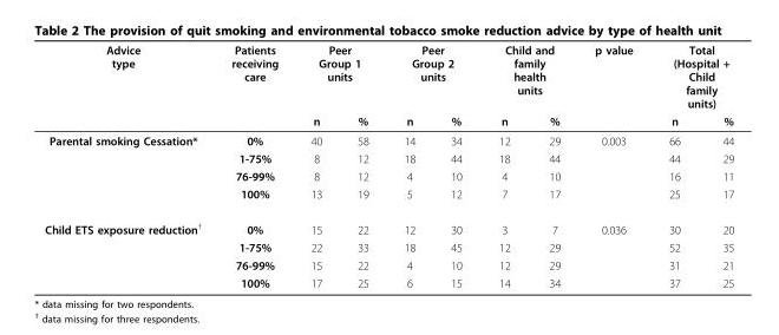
<table><thead><tr><td rowspan="2">Advice type</td><td rowspan="2">Patients receiving care</td><td colspan="2">Peer Group 1 units</td><td colspan="2">Peer Group 2 units</td><td colspan="2">Child and family health units</td><td rowspan="2">p value</td><td colspan="2">Total (Hospital + Child family units)</td></tr><tr><td>n</td><td>%</td><td>n</td><td>%</td><td>n</td><td>%</td><td>n</td><td>%</td></tr></thead><tbody><tr><td rowspan="4">Parental smoking Cessation*</td><td>0%</td><td>40</td><td>58</td><td>14</td><td>34</td><td>12</td><td>29</td><td>0.003</td><td>66</td><td>44</td></tr><tr><td>1-75%</td><td>8</td><td>12</td><td>18</td><td>44</td><td>18</td><td>44</td><td></td><td>44</td><td>29</td></tr><tr><td>76-99%</td><td>8</td><td>12</td><td>4</td><td>10</td><td>4</td><td>10</td><td></td><td>16</td><td>11</td></tr><tr><td>100%</td><td>13</td><td>19</td><td>5</td><td>12</td><td>7</td><td>17</td><td></td><td>25</td><td>17</td></tr><tr><td rowspan="4">Child ETS exposure reduction<sup>†</sup></td><td>0%</td><td>15</td><td>22</td><td>12</td><td>30</td><td>3</td><td>7</td><td>0.036</td><td>30</td><td>20</td></tr><tr><td>1-75%</td><td>22</td><td>33</td><td>18</td><td>45</td><td>12</td><td>29</td><td></td><td>52</td><td>35</td></tr><tr><td>76-99%</td><td>15</td><td>22</td><td>4</td><td>10</td><td>12</td><td>29</td><td></td><td>31</td><td>21</td></tr><tr><td>100%</td><td>17</td><td>25</td><td>6</td><td>15</td><td>14</td><td>34</td><td></td><td>37</td><td>25</td></tr></tbody></table>